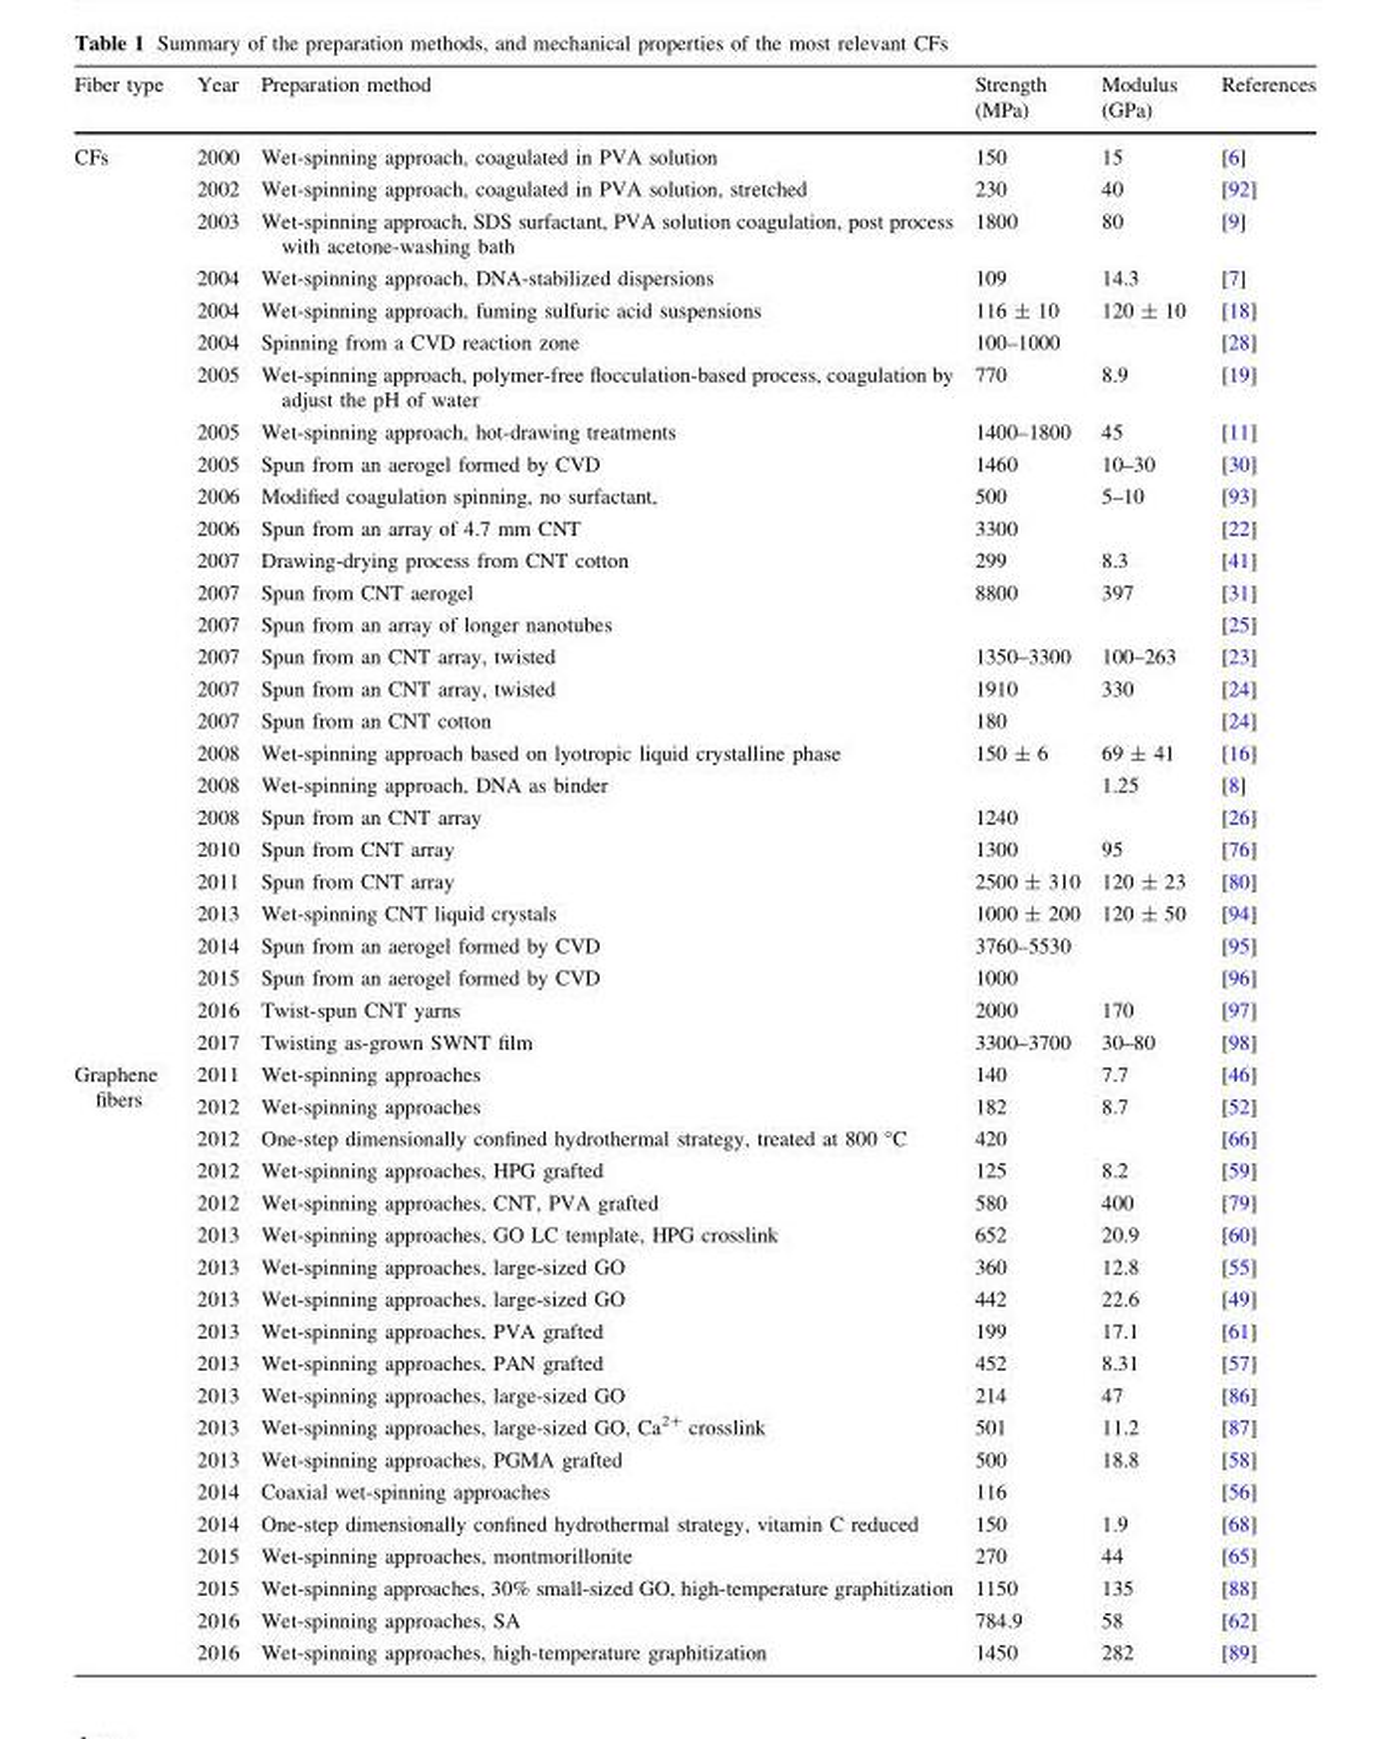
<table><thead><tr><td>Fiber type</td><td>Year</td><td>Preparation method</td><td>Strength (MPa)</td><td>Modulus (GPa)</td><td>References</td></tr></thead><tbody><tr><td rowspan="27">CFs</td><td>2000</td><td>Wet-spinning approach, coagulated in PVA solution</td><td>150</td><td>15</td><td>[6]</td></tr><tr><td>2002</td><td>Wet-spinning approach, coagulated in PVA solution, stretched</td><td>230</td><td>40</td><td>[92]</td></tr><tr><td>2003</td><td>Wet-spinning approach, SDS surfactant, PVA solution coagulation, post process with acetone-washing bath</td><td>1800</td><td>80</td><td>[9]</td></tr><tr><td>2004</td><td>Wet-spinning approach, DNA-stabilized dispersions</td><td>109</td><td>14.3</td><td>[7]</td></tr><tr><td>2004</td><td>Wet-spinning approach, fuming sulfuric acid suspensions</td><td>116 ± 10</td><td>120 ± 10</td><td>[18]</td></tr><tr><td>2004</td><td>Spinning from a CVD reaction zone</td><td>100–1000</td><td></td><td>[28]</td></tr><tr><td>2005</td><td>Wet-spinning approach, polymer-free flocculation-based process, coagulation by adjust the pH of water</td><td>770</td><td>8.9</td><td>[19]</td></tr><tr><td>2005</td><td>Wet-spinning approach, hot-drawing treatments</td><td>1400–1800</td><td>45</td><td>[11]</td></tr><tr><td>2005</td><td>Spun from an aerogel formed by CVD</td><td>1460</td><td>10–30</td><td>[30]</td></tr><tr><td>2006</td><td>Modified coagulation spinning, no surfactant,</td><td>500</td><td>5–10</td><td>[93]</td></tr><tr><td>2006</td><td>Spun from an array of 4.7 mm CNT</td><td>3300</td><td></td><td>[22]</td></tr><tr><td>2007</td><td>Drawing-drying process from CNT cotton</td><td>299</td><td>8.3</td><td>[41]</td></tr><tr><td>2007</td><td>Spun from CNT aerogel</td><td>8800</td><td>397</td><td>[31]</td></tr><tr><td>2007</td><td>Spun from an array of longer nanotubes</td><td></td><td></td><td>[25]</td></tr><tr><td>2007</td><td>Spun from an CNT array, twisted</td><td>1350–3300</td><td>100–263</td><td>[23]</td></tr><tr><td>2007</td><td>Spun from an CNT array, twisted</td><td>1910</td><td>330</td><td>[24]</td></tr><tr><td>2007</td><td>Spun from an CNT cotton</td><td>180</td><td></td><td>[24]</td></tr><tr><td>2008</td><td>Wet-spinning approach based on lyotropic liquid crystalline phase</td><td>150 ± 6</td><td>69 ± 41</td><td>[16]</td></tr><tr><td>2008</td><td>Wet-spinning approach, DNA as binder</td><td></td><td>1.25</td><td>[8]</td></tr><tr><td>2008</td><td>Spun from an CNT array</td><td>1240</td><td></td><td>[26]</td></tr><tr><td>2010</td><td>Spun from CNT array</td><td>1300</td><td>95</td><td>[76]</td></tr><tr><td>2011</td><td>Spun from CNT array</td><td>2500 ± 310</td><td>120 ± 23</td><td>[80]</td></tr><tr><td>2013</td><td>Wet-spinning CNT liquid crystals</td><td>1000 ± 200</td><td>120 ± 50</td><td>[94]</td></tr><tr><td>2014</td><td>Spun from an aerogel formed by CVD</td><td>3760–5530</td><td></td><td>[95]</td></tr><tr><td>2015</td><td>Spun from an aerogel formed by CVD</td><td>1000</td><td></td><td>[96]</td></tr><tr><td>2016</td><td>Twist-spun CNT yarns</td><td>2000</td><td>170</td><td>[97]</td></tr><tr><td>2017</td><td>Twisting as-grown SWNT film</td><td>3300–3700</td><td>30–80</td><td>[98]</td></tr><tr><td rowspan="19">Graphene fibers</td><td>2011</td><td>Wet-spinning approaches</td><td>140</td><td>7.7</td><td>[46]</td></tr><tr><td>2012</td><td>Wet-spinning approaches</td><td>182</td><td>8.7</td><td>[52]</td></tr><tr><td>2012</td><td>One-step dimensionally confined hydrothermal strategy, treated at 800 °C</td><td>420</td><td></td><td>[66]</td></tr><tr><td>2012</td><td>Wet-spinning approaches, HPG grafted</td><td>125</td><td>8.2</td><td>[59]</td></tr><tr><td>2012</td><td>Wet-spinning approaches, CNT, PVA grafted</td><td>580</td><td>400</td><td>[79]</td></tr><tr><td>2013</td><td>Wet-spinning approaches, GO LC template, HPG crosslink</td><td>652</td><td>20.9</td><td>[60]</td></tr><tr><td>2013</td><td>Wet-spinning approaches, large-sized GO</td><td>360</td><td>12.8</td><td>[55]</td></tr><tr><td>2013</td><td>Wet-spinning approaches, large-sized GO</td><td>442</td><td>22.6</td><td>[49]</td></tr><tr><td>2013</td><td>Wet-spinning approaches, PVA grafted</td><td>199</td><td>17.1</td><td>[61]</td></tr><tr><td>2013</td><td>Wet-spinning approaches, PAN grafted</td><td>452</td><td>8.31</td><td>[57]</td></tr><tr><td>2013</td><td>Wet-spinning approaches, large-sized GO</td><td>214</td><td>47</td><td>[86]</td></tr><tr><td>2013</td><td>Wet-spinning approaches, large-sized GO, Ca<sup>2+</sup> crosslink</td><td>501</td><td>11.2</td><td>[87]</td></tr><tr><td>2013</td><td>Wet-spinning approaches, PGMA grafted</td><td>500</td><td>18.8</td><td>[58]</td></tr><tr><td>2014</td><td>Coaxial wet-spinning approaches</td><td>116</td><td></td><td>[56]</td></tr><tr><td>2014</td><td>One-step dimensionally confined hydrothermal strategy, vitamin C reduced</td><td>150</td><td>1.9</td><td>[68]</td></tr><tr><td>2015</td><td>Wet-spinning approaches, montmorillonite</td><td>270</td><td>44</td><td>[65]</td></tr><tr><td>2015</td><td>Wet-spinning approaches, 30% small-sized GO, high-temperature graphitization</td><td>1150</td><td>135</td><td>[88]</td></tr><tr><td>2016</td><td>Wet-spinning approaches, SA</td><td>784.9</td><td>58</td><td>[62]</td></tr><tr><td>2016</td><td>Wet-spinning approaches, high-temperature graphitization</td><td>1450</td><td>282</td><td>[89]</td></tr></tbody></table>